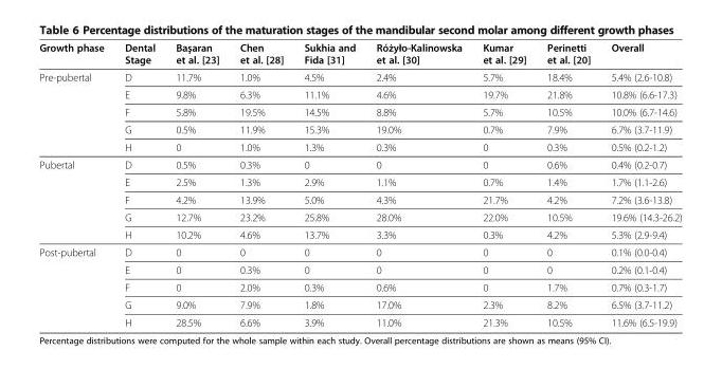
<table><thead><tr><td>Growth phase</td><td>Dental Stage</td><td>Başaran et al. [23]</td><td>Chen et al. [28]</td><td>Sukhia and Fida [31]</td><td>Różyło-Kalinowska et al. [30]</td><td>Kumar et al. [29]</td><td>Perinetti et al. [20]</td><td>Overall</td></tr></thead><tbody><tr><td rowspan="5">Pre-pubertal</td><td>D</td><td>11.7%</td><td>1.0%</td><td>4.5%</td><td>2.4%</td><td>5.7%</td><td>18.4%</td><td>5.4% (2.6-10.8)</td></tr><tr><td>E</td><td>9.8%</td><td>6.3%</td><td>11.1%</td><td>4.6%</td><td>19.7%</td><td>21.8%</td><td>10.8% (6.6-17.3)</td></tr><tr><td>F</td><td>5.8%</td><td>19.5%</td><td>14.5%</td><td>8.8%</td><td>5.7%</td><td>10.5%</td><td>10.0% (6.7-14.6)</td></tr><tr><td>G</td><td>0.5%</td><td>11.9%</td><td>15.3%</td><td>19.0%</td><td>0.7%</td><td>7.9%</td><td>6.7% (3.7-11.9)</td></tr><tr><td>H</td><td>0</td><td>1.0%</td><td>1.3%</td><td>0.3%</td><td>0</td><td>0.3%</td><td>0.5% (0.2-1.2)</td></tr><tr><td rowspan="5">Pubertal</td><td>D</td><td>0.5%</td><td>0.3%</td><td>0</td><td>0</td><td>0</td><td>0.6%</td><td>0.4% (0.2-0.7)</td></tr><tr><td>E</td><td>2.5%</td><td>1.3%</td><td>2.9%</td><td>1.1%</td><td>0.7%</td><td>1.4%</td><td>1.7% (1.1-2.6)</td></tr><tr><td>F</td><td>4.2%</td><td>13.9%</td><td>5.0%</td><td>4.3%</td><td>21.7%</td><td>4.2%</td><td>7.2% (3.6-13.8)</td></tr><tr><td>G</td><td>12.7%</td><td>23.2%</td><td>25.8%</td><td>28.0%</td><td>22.0%</td><td>10.5%</td><td>19.6% (14.3-26.2)</td></tr><tr><td>H</td><td>10.2%</td><td>4.6%</td><td>13.7%</td><td>3.3%</td><td>0.3%</td><td>4.2%</td><td>5.3% (2.9-9.4)</td></tr><tr><td rowspan="5">Post-pubertal</td><td>D</td><td>0</td><td>0</td><td>0</td><td>0</td><td>0</td><td>0</td><td>0.1% (0.0-0.4)</td></tr><tr><td>E</td><td>0</td><td>0.3%</td><td>0</td><td>0</td><td>0</td><td>0</td><td>0.2% (0.1-0.4)</td></tr><tr><td>F</td><td>0</td><td>2.0%</td><td>0.3%</td><td>0.6%</td><td>0</td><td>1.7%</td><td>0.7% (0.3-1.7)</td></tr><tr><td>G</td><td>9.0%</td><td>7.9%</td><td>1.8%</td><td>17.0%</td><td>2.3%</td><td>8.2%</td><td>6.5% (3.7-11.2)</td></tr><tr><td>H</td><td>28.5%</td><td>6.6%</td><td>3.9%</td><td>11.0%</td><td>21.3%</td><td>10.5%</td><td>11.6% (6.5-19.9)</td></tr></tbody></table>